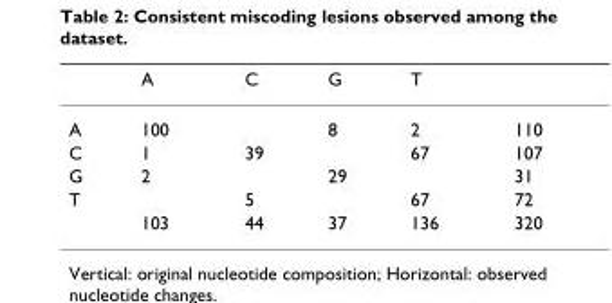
<table><thead><tr><td></td><td>A</td><td>C</td><td>G</td><td>T</td><td></td></tr></thead><tbody><tr><td>A</td><td>100</td><td></td><td>8</td><td>2</td><td>110</td></tr><tr><td>C</td><td>1</td><td>39</td><td></td><td>67</td><td>107</td></tr><tr><td>G</td><td>2</td><td></td><td>29</td><td></td><td>31</td></tr><tr><td rowspan="2">T</td><td></td><td>5</td><td></td><td>67</td><td>72</td></tr><tr><td>103</td><td>44</td><td>37</td><td>136</td><td>320</td></tr></tbody></table>